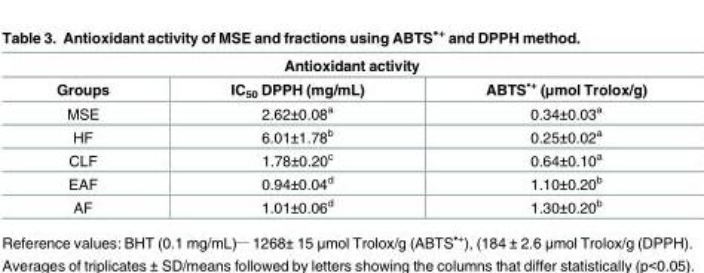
<table><thead><tr><td colspan="3">Antioxidant activity</td></tr><tr><td>Groups</td><td>IC<sub>50</sub> DPPH (mg/mL)</td><td>ABTS<sup>•+</sup> (μmol Trolox/g)</td></tr></thead><tbody><tr><td>MSE</td><td>2.62±0.08<sup>a</sup></td><td>0.34±0.03<sup>a</sup></td></tr><tr><td>HF</td><td>6.01±1.78<sup>b</sup></td><td>0.25±0.02<sup>a</sup></td></tr><tr><td>CLF</td><td>1.78±0.20<sup>c</sup></td><td>0.64±0.10<sup>a</sup></td></tr><tr><td>EAF</td><td>0.94±0.04<sup>d</sup></td><td>1.10±0.20<sup>b</sup></td></tr><tr><td>AF</td><td>1.01±0.06<sup>d</sup></td><td>1.30±0.20<sup>b</sup></td></tr></tbody></table>